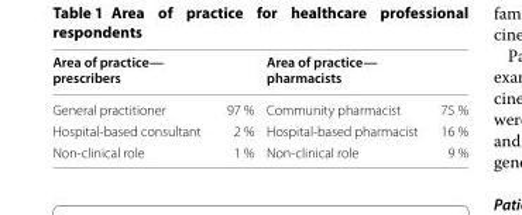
<table><thead><tr><td>Area of practice— prescribers</td><td></td><td>Area of practice— pharmacists</td><td></td></tr></thead><tbody><tr><td>General practitioner</td><td>97 %</td><td>Community pharmacist</td><td>75 %</td></tr><tr><td>Hospital-based consultant</td><td>2 %</td><td>Hospital-based pharmacist</td><td>16 %</td></tr><tr><td>Non-clinical role</td><td>1 %</td><td>Non-clinical role</td><td>9 %</td></tr></tbody></table>